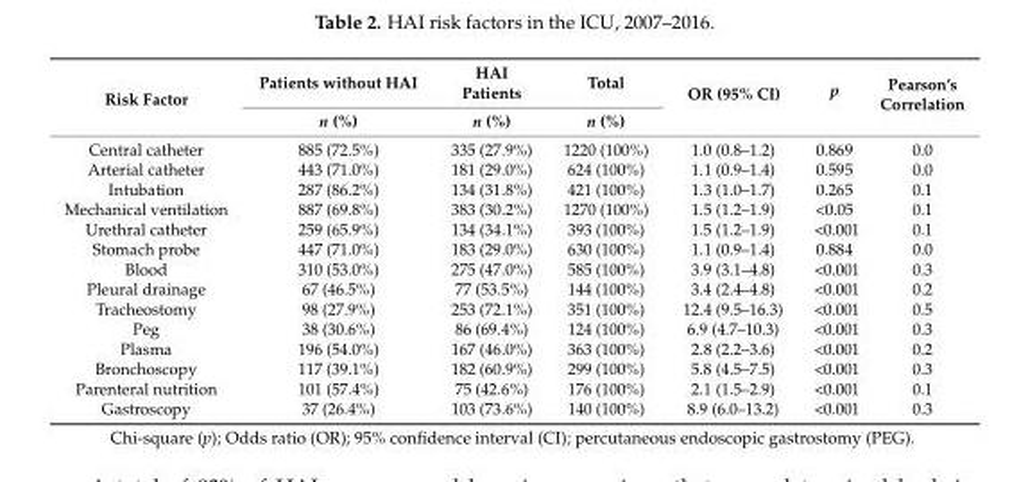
<table><thead><tr><td rowspan="2">Risk Factor</td><td rowspan="2">Patients without HAI n (%)</td><td rowspan="2">HAI Patients n (%)</td><td rowspan="2">Total n (%)</td><td rowspan="2">OR (95% CI)</td><td rowspan="2">p</td><td rowspan="2">Pearson’s Correlation</td></tr><tr></tr></thead><tbody><tr><td>Central catheter</td><td>885 (72.5%)</td><td>335 (27.9%)</td><td>1220 (100%)</td><td>1.0 (0.8–1.2)</td><td>0.869</td><td>0.0</td></tr><tr><td>Arterial catheter</td><td>443 (71.0%)</td><td>181 (29.0%)</td><td>624 (100%)</td><td>1.1 (0.9–1.4)</td><td>0.595</td><td>0.0</td></tr><tr><td>Intubation</td><td>287 (86.2%)</td><td>134 (31.8%)</td><td>421 (100%)</td><td>1.3 (1.0–1.7)</td><td>0.265</td><td>0.1</td></tr><tr><td>Mechanical ventilation</td><td>887 (69.8%)</td><td>383 (30.2%)</td><td>1270 (100%)</td><td>1.5 (1.2–1.9)</td><td>&lt;0.05</td><td>0.1</td></tr><tr><td>Urethral catheter</td><td>259 (65.9%)</td><td>134 (34.1%)</td><td>393 (100%)</td><td>1.5 (1.2–1.9)</td><td>&lt;0.001</td><td>0.1</td></tr><tr><td>Stomach probe</td><td>447 (71.0%)</td><td>183 (29.0%)</td><td>630 (100%)</td><td>1.1 (0.9–1.4)</td><td>0.884</td><td>0.0</td></tr><tr><td>Blood</td><td>310 (53.0%)</td><td>275 (47.0%)</td><td>585 (100%)</td><td>3.9 (3.1–4.8)</td><td>&lt;0.001</td><td>0.3</td></tr><tr><td>Pleural drainage</td><td>67 (46.5%)</td><td>77 (53.5%)</td><td>144 (100%)</td><td>3.4 (2.4–4.8)</td><td>&lt;0.001</td><td>0.2</td></tr><tr><td>Tracheostomy</td><td>98 (27.9%)</td><td>253 (72.1%)</td><td>351 (100%)</td><td>12.4 (9.5–16.3)</td><td>&lt;0.001</td><td>0.5</td></tr><tr><td>Peg</td><td>38 (30.6%)</td><td>86 (69.4%)</td><td>124 (100%)</td><td>6.9 (4.7–10.3)</td><td>&lt;0.001</td><td>0.3</td></tr><tr><td>Plasma</td><td>196 (54.0%)</td><td>167 (46.0%)</td><td>363 (100%)</td><td>2.8 (2.2–3.6)</td><td>&lt;0.001</td><td>0.2</td></tr><tr><td>Bronchoscopy</td><td>117 (39.1%)</td><td>182 (60.9%)</td><td>299 (100%)</td><td>5.8 (4.5–7.5)</td><td>&lt;0.001</td><td>0.3</td></tr><tr><td>Parenteral nutrition</td><td>101 (57.4%)</td><td>75 (42.6%)</td><td>176 (100%)</td><td>2.1 (1.5–2.9)</td><td>&lt;0.001</td><td>0.1</td></tr><tr><td>Gastroscopy</td><td>37 (26.4%)</td><td>103 (73.6%)</td><td>140 (100%)</td><td>8.9 (6.0–13.2)</td><td>&lt;0.001</td><td>0.3</td></tr></tbody></table>